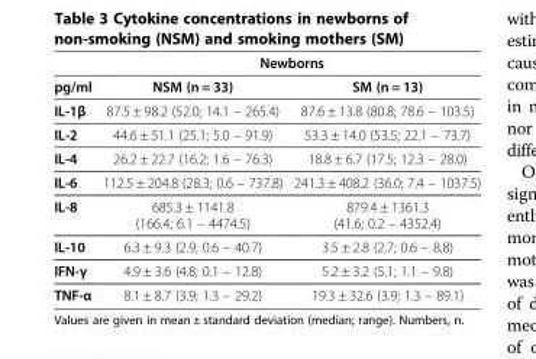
<table><thead><tr><td rowspan="2">pg/ml</td><td colspan="2">Newborns</td></tr><tr><td>NSM (n = 33)</td><td>SM (n = 13)</td></tr></thead><tbody><tr><td>IL-1β</td><td>87.5 ± 98.2 (52.0; 14.1 – 265.4)</td><td>87.6 ± 13.8 (80.8; 78.6 – 103.5)</td></tr><tr><td>IL-2</td><td>44.6 ± 51.1 (25.1; 5.0 – 91.9)</td><td>53.3 ± 14.0 (53.5; 22.1 – 73.7)</td></tr><tr><td>IL-4</td><td>26.2 ± 22.7 (16.2; 1.6 – 76.3)</td><td>18.8 ± 6.7 (17.5; 12.3 – 28.0)</td></tr><tr><td>IL-6</td><td>112.5 ± 204.8 (28.3; 0.6 – 737.8)</td><td>241.3 ± 408.2 (36.0; 7.4 – 1037.5)</td></tr><tr><td>IL-8</td><td>685.3 ± 1141.8 (166.4; 6.1 – 4474.5)</td><td>879.4 ± 1361.3 (41.6; 0.2 – 4352.4)</td></tr><tr><td>IL-10</td><td>6.3 ± 9.3 (2.9; 0.6 – 40.7)</td><td>3.5 ± 2.8 (2.7; 0.6 – 8.8)</td></tr><tr><td>IFN-γ</td><td>4.9 ± 3.6 (4.8; 0.1 – 12.8)</td><td>5.2 ± 3.2 (5.1; 1.1 – 9.8)</td></tr><tr><td>TNF-α</td><td>8.1 ± 8.7 (3.9; 1.3 – 29.2)</td><td>19.3 ± 32.6 (3.9; 1.3 – 89.1)</td></tr></tbody></table>